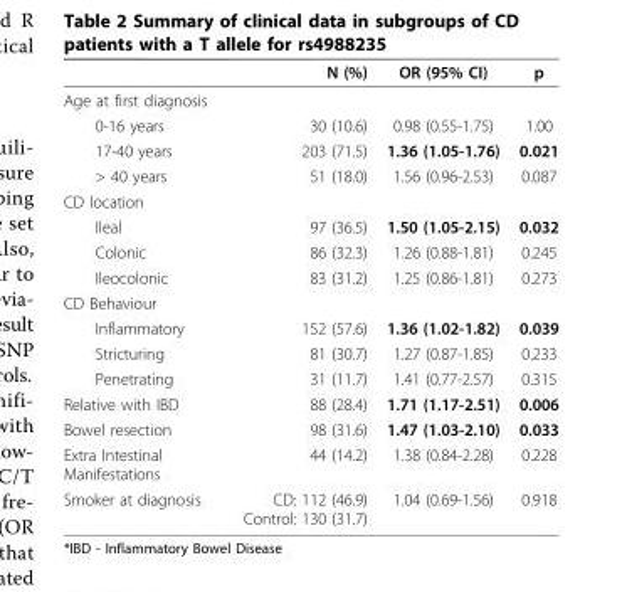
<table><thead><tr><td></td><td>N (%)</td><td>OR (95% CI)</td><td>p</td></tr></thead><tbody><tr><td colspan="4">Age at first diagnosis</td></tr><tr><td>0-16 years</td><td>30 (10.6)</td><td>0.98 (0.55-1.75)</td><td>1.00</td></tr><tr><td>17-40 years</td><td>203 (71.5)</td><td>1.36 (1.05-1.76)</td><td>0.021</td></tr><tr><td>&gt; 40 years</td><td>51 (18.0)</td><td>1.56 (0.96-2.53)</td><td>0.087</td></tr><tr><td colspan="4">CD location</td></tr><tr><td>Ileal</td><td>97 (36.5)</td><td>1.50 (1.05-2.15)</td><td>0.032</td></tr><tr><td>Colonic</td><td>86 (32.3)</td><td>1.26 (0.88-1.81)</td><td>0.245</td></tr><tr><td>Ileocolonic</td><td>83 (31.2)</td><td>1.25 (0.86-1.81)</td><td>0.273</td></tr><tr><td colspan="4">CD Behaviour</td></tr><tr><td>Inflammatory</td><td>152 (57.6)</td><td>1.36 (1.02-1.82)</td><td>0.039</td></tr><tr><td>Stricturing</td><td>81 (30.7)</td><td>1.27 (0.87-1.85)</td><td>0.233</td></tr><tr><td>Penetrating</td><td>31 (11.7)</td><td>1.41 (0.77-2.57)</td><td>0.315</td></tr><tr><td>Relative with IBD</td><td>88 (28.4)</td><td>1.71 (1.17-2.51)</td><td>0.006</td></tr><tr><td>Bowel resection</td><td>98 (31.6)</td><td>1.47 (1.03-2.10)</td><td>0.033</td></tr><tr><td>Extra Intestinal Manifestations</td><td>44 (14.2)</td><td>1.38 (0.84-2.28)</td><td>0.228</td></tr><tr><td>Smoker at diagnosis</td><td>CD: 112 (46.9) Control: 130 (31.7)</td><td>1.04 (0.69-1.56)</td><td>0.918</td></tr></tbody></table>